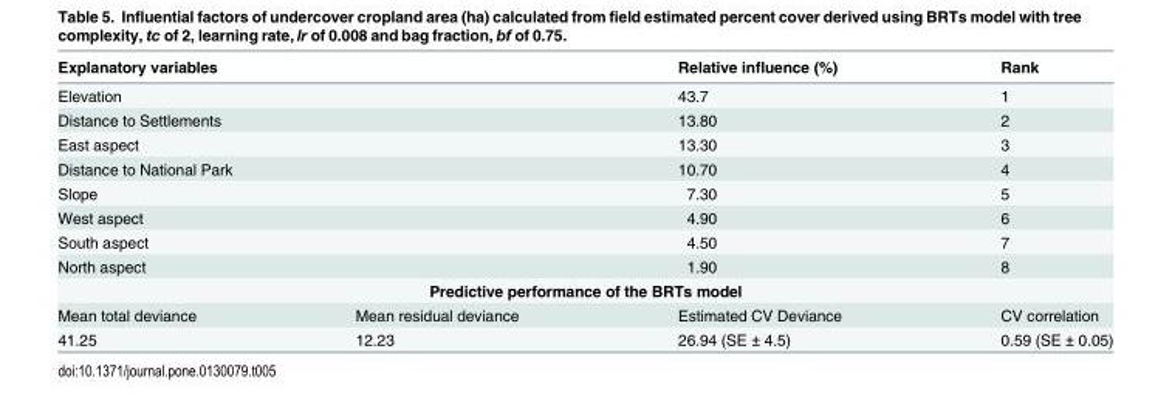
<table><thead><tr><td colspan="2">Explanatory variables</td><td rowspan="2">Relative influence (%) 43.7</td><td rowspan="2">Rank 1</td></tr><tr><td>Elevation</td><td></td></tr></thead><tbody><tr><td>Distance to Settlements</td><td></td><td>13.80</td><td>2</td></tr><tr><td>East aspect</td><td></td><td>13.30</td><td>3</td></tr><tr><td>Distance to National Park</td><td></td><td>10.70</td><td>4</td></tr><tr><td>Slope</td><td></td><td>7.30</td><td>5</td></tr><tr><td>West aspect</td><td></td><td>4.90</td><td>6</td></tr><tr><td>South aspect</td><td></td><td>4.50</td><td>7</td></tr><tr><td>North aspect</td><td></td><td>1.90</td><td>8</td></tr><tr><td colspan="4">Predictive performance of the BRTs model</td></tr><tr><td>Mean total deviance</td><td>Mean residual deviance</td><td>Estimated CV Deviance</td><td>CV correlation</td></tr><tr><td>41.25</td><td>12.23</td><td>26.94 (SE ± 4.5)</td><td>0.59 (SE ± 0.05)</td></tr></tbody></table>